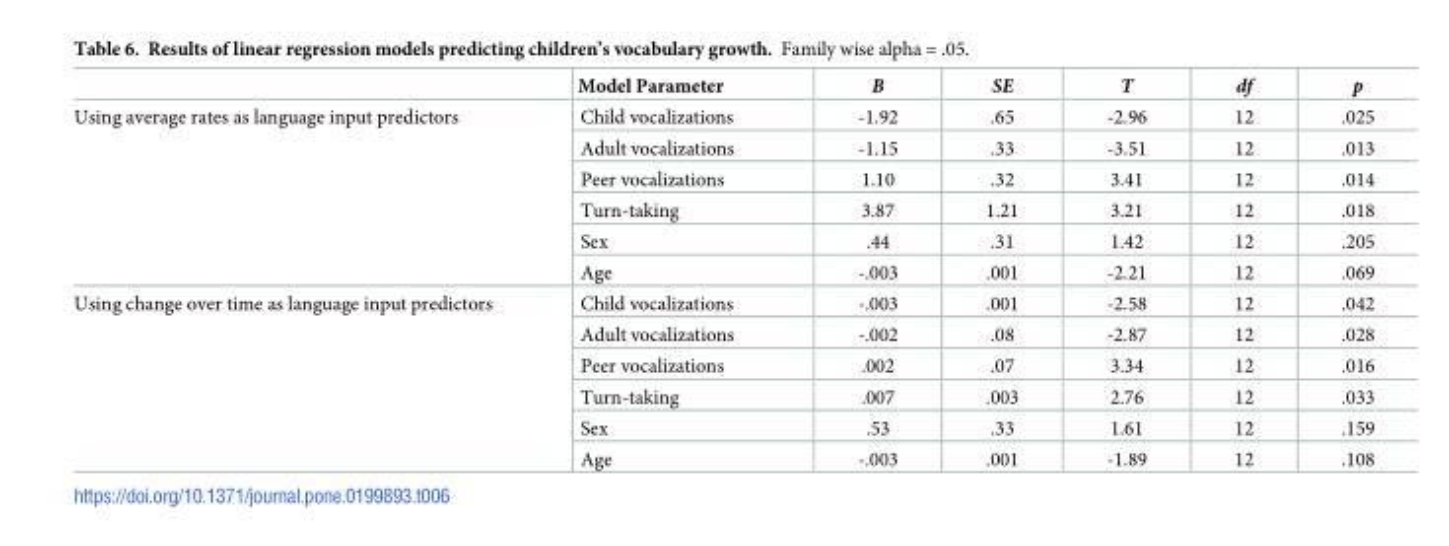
<table><thead><tr><td></td><td>Model Parameter</td><td>B</td><td>SE</td><td>T</td><td>df</td><td>p</td></tr></thead><tbody><tr><td rowspan="6">Using average rates as language input predictors</td><td>Child vocalizations</td><td>-1.92</td><td>.65</td><td>-2.96</td><td>12</td><td>.025</td></tr><tr><td>Adult vocalizations</td><td>-1.15</td><td>.33</td><td>-3.51</td><td>12</td><td>.013</td></tr><tr><td>Peer vocalizations</td><td>1.10</td><td>.32</td><td>3.41</td><td>12</td><td>.014</td></tr><tr><td>Turn-taking</td><td>3.87</td><td>1.21</td><td>3.21</td><td>12</td><td>.018</td></tr><tr><td>Sex</td><td>.44</td><td>.31</td><td>1.42</td><td>12</td><td>.205</td></tr><tr><td>Age</td><td>-.003</td><td>.001</td><td>-2.21</td><td>12</td><td>.069</td></tr><tr><td rowspan="6">Using change over time as language input predictors</td><td>Child vocalizations</td><td>-.003</td><td>.001</td><td>-2.58</td><td>12</td><td>.042</td></tr><tr><td>Adult vocalizations</td><td>-.002</td><td>.08</td><td>-2.87</td><td>12</td><td>.028</td></tr><tr><td>Peer vocalizations</td><td>.002</td><td>.07</td><td>3.34</td><td>12</td><td>.016</td></tr><tr><td>Turn-taking</td><td>.007</td><td>.003</td><td>2.76</td><td>12</td><td>.033</td></tr><tr><td>Sex</td><td>.53</td><td>.33</td><td>1.61</td><td>12</td><td>.159</td></tr><tr><td>Age</td><td>-.003</td><td>.001</td><td>-1.89</td><td>12</td><td>.108</td></tr></tbody></table>